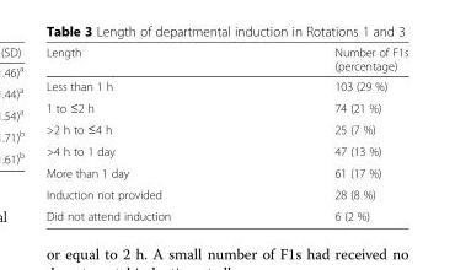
<table><thead><tr><td>Length</td><td>Number of F1s (percentage)</td></tr></thead><tbody><tr><td>Less than 1 h</td><td>103 (29 %)</td></tr><tr><td>1 to ≤2 h</td><td>74 (21 %)</td></tr><tr><td>&gt;2 h to ≤4 h</td><td>25 (7 %)</td></tr><tr><td>&gt;4 h to 1 day</td><td>47 (13 %)</td></tr><tr><td>More than 1 day</td><td>61 (17 %)</td></tr><tr><td>Induction not provided</td><td>28 (8 %)</td></tr><tr><td>Did not attend induction</td><td>6 (2 %)</td></tr></tbody></table>